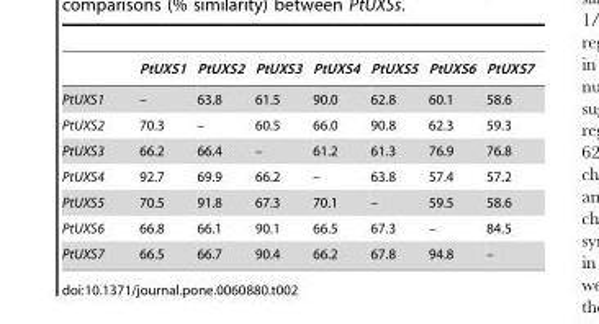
<table><thead><tr><td></td><td>PtUXS1</td><td>PtUXS2</td><td>PtUXS3</td><td>PtUXS4</td><td>PtUXS5</td><td>PtUXS6</td><td>PtUXS7</td></tr></thead><tbody><tr><td>PtUXS1</td><td>–</td><td>63.8</td><td>61.5</td><td>90.0</td><td>62.8</td><td>60.1</td><td>58.6</td></tr><tr><td>PtUXS2</td><td>70.3</td><td>–</td><td>60.5</td><td>66.0</td><td>90.8</td><td>62.3</td><td>59.3</td></tr><tr><td>PtUXS3</td><td>66.2</td><td>66.4</td><td>–</td><td>61.2</td><td>61.3</td><td>76.9</td><td>76.8</td></tr><tr><td>PtUXS4</td><td>92.7</td><td>69.9</td><td>66.2</td><td>–</td><td>63.8</td><td>57.4</td><td>57.2</td></tr><tr><td>PtUXS5</td><td>70.5</td><td>91.8</td><td>67.3</td><td>70.1</td><td>–</td><td>59.5</td><td>58.6</td></tr><tr><td>PtUXS6</td><td>66.8</td><td>66.1</td><td>90.1</td><td>66.5</td><td>67.3</td><td>–</td><td>84.5</td></tr><tr><td>PtUXS7</td><td>66.5</td><td>66.7</td><td>90.4</td><td>66.2</td><td>67.8</td><td>94.8</td><td>–</td></tr></tbody></table>